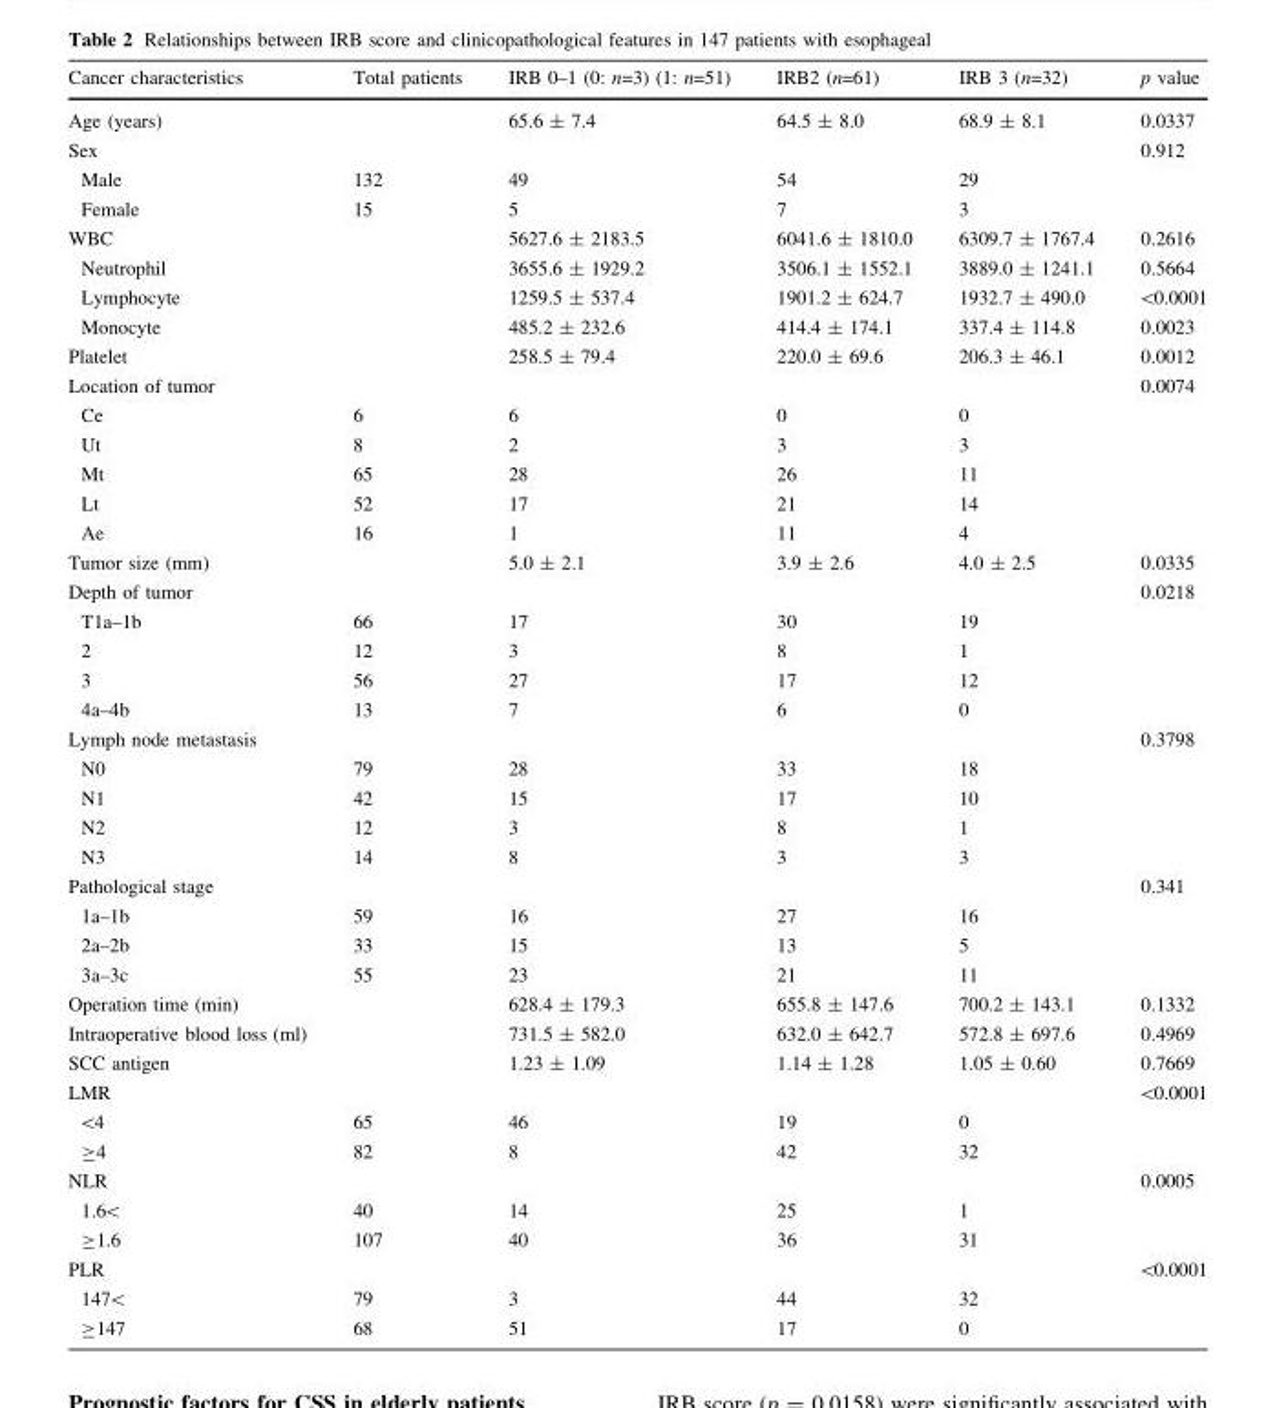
<table><thead><tr><td>Cancer characteristics</td><td>Total patients</td><td>IRB 0–1 (0: n=3) (1: n=51)</td><td>IRB2 (n=61)</td><td>IRB 3 (n=32)</td><td>p value</td></tr></thead><tbody><tr><td>Age (years)</td><td></td><td>65.6 ± 7.4</td><td>64.5 ± 8.0</td><td>68.9 ± 8.1</td><td>0.0337</td></tr><tr><td>Sex</td><td></td><td></td><td></td><td></td><td>0.912</td></tr><tr><td>Male</td><td>132</td><td>49</td><td>54</td><td>29</td><td></td></tr><tr><td>Female</td><td>15</td><td>5</td><td>7</td><td>3</td><td></td></tr><tr><td>WBC</td><td></td><td>5627.6 ± 2183.5</td><td>6041.6 ± 1810.0</td><td>6309.7 ± 1767.4</td><td>0.2616</td></tr><tr><td>Neutrophil</td><td></td><td>3655.6 ± 1929.2</td><td>3506.1 ± 1552.1</td><td>3889.0 ± 1241.1</td><td>0.5664</td></tr><tr><td>Lymphocyte</td><td></td><td>1259.5 ± 537.4</td><td>1901.2 ± 624.7</td><td>1932.7 ± 490.0</td><td>&lt;0.0001</td></tr><tr><td>Monocyte</td><td></td><td>485.2 ± 232.6</td><td>414.4 ± 174.1</td><td>337.4 ± 114.8</td><td>0.0023</td></tr><tr><td>Platelet</td><td></td><td>258.5 ± 79.4</td><td>220.0 ± 69.6</td><td>206.3 ± 46.1</td><td>0.0012</td></tr><tr><td>Location of tumor</td><td></td><td></td><td></td><td></td><td>0.0074</td></tr><tr><td>Ce</td><td>6</td><td>6</td><td>0</td><td>0</td><td></td></tr><tr><td>Ut</td><td>8</td><td>2</td><td>3</td><td>3</td><td></td></tr><tr><td>Mt</td><td>65</td><td>28</td><td>26</td><td>11</td><td></td></tr><tr><td>Lt</td><td>52</td><td>17</td><td>21</td><td>14</td><td></td></tr><tr><td>Ae</td><td>16</td><td>1</td><td>11</td><td>4</td><td></td></tr><tr><td>Tumor size (mm)</td><td></td><td>5.0 ± 2.1</td><td>3.9 ± 2.6</td><td>4.0 ± 2.5</td><td>0.0335</td></tr><tr><td>Depth of tumor</td><td></td><td></td><td></td><td></td><td>0.0218</td></tr><tr><td>T1a–1b</td><td>66</td><td>17</td><td>30</td><td>19</td><td></td></tr><tr><td>2</td><td>12</td><td>3</td><td>8</td><td>1</td><td></td></tr><tr><td>3</td><td>56</td><td>27</td><td>17</td><td>12</td><td></td></tr><tr><td>4a–4b</td><td>13</td><td>7</td><td>6</td><td>0</td><td></td></tr><tr><td>Lymph node metastasis</td><td></td><td></td><td></td><td></td><td>0.3798</td></tr><tr><td>N0</td><td>79</td><td>28</td><td>33</td><td>18</td><td></td></tr><tr><td>N1</td><td>42</td><td>15</td><td>17</td><td>10</td><td></td></tr><tr><td>N2</td><td>12</td><td>3</td><td>8</td><td>1</td><td></td></tr><tr><td>N3</td><td>14</td><td>8</td><td>3</td><td>3</td><td></td></tr><tr><td>Pathological stage</td><td></td><td></td><td></td><td></td><td>0.341</td></tr><tr><td>1a–1b</td><td>59</td><td>16</td><td>27</td><td>16</td><td></td></tr><tr><td>2a–2b</td><td>33</td><td>15</td><td>13</td><td>5</td><td></td></tr><tr><td>3a–3c</td><td>55</td><td>23</td><td>21</td><td>11</td><td></td></tr><tr><td>Operation time (min)</td><td></td><td>628.4 ± 179.3</td><td>655.8 ± 147.6</td><td>700.2 ± 143.1</td><td>0.1332</td></tr><tr><td>Intraoperative blood loss (ml)</td><td></td><td>731.5 ± 582.0</td><td>632.0 ± 642.7</td><td>572.8 ± 697.6</td><td>0.4969</td></tr><tr><td>SCC antigen</td><td></td><td>1.23 ± 1.09</td><td>1.14 ± 1.28</td><td>1.05 ± 0.60</td><td>0.7669</td></tr><tr><td>LMR</td><td></td><td></td><td></td><td></td><td>&lt;0.0001</td></tr><tr><td>&lt;4</td><td>65</td><td>46</td><td>19</td><td>0</td><td></td></tr><tr><td>≥4</td><td>82</td><td>8</td><td>42</td><td>32</td><td></td></tr><tr><td>NLR</td><td></td><td></td><td></td><td></td><td>0.0005</td></tr><tr><td>1.6&lt;</td><td>40</td><td>14</td><td>25</td><td>1</td><td></td></tr><tr><td>≥1.6</td><td>107</td><td>40</td><td>36</td><td>31</td><td></td></tr><tr><td>PLR</td><td></td><td></td><td></td><td></td><td>&lt;0.0001</td></tr><tr><td>147&lt;</td><td>79</td><td>3</td><td>44</td><td>32</td><td></td></tr><tr><td>≥147</td><td>68</td><td>51</td><td>17</td><td>0</td><td></td></tr></tbody></table>